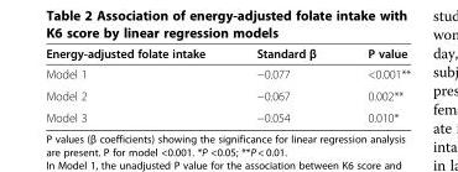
<table><thead><tr><td>Energy-adjusted folate intake</td><td>Standard β</td><td>P value</td></tr></thead><tbody><tr><td>Model 1</td><td>−0.077</td><td>&lt;0.001**</td></tr><tr><td>Model 2</td><td>−0.067</td><td>0.002**</td></tr><tr><td>Model 3</td><td>−0.054</td><td>0.010*</td></tr></tbody></table>